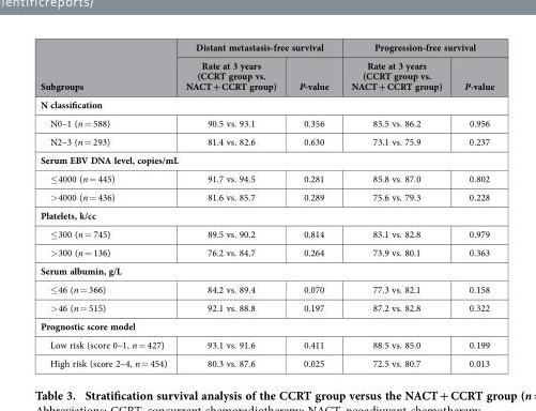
<table><thead><tr><td rowspan="2">Subgroups</td><td colspan="2">Distant metastasis-free survival</td><td colspan="2">Progression-free survival</td></tr><tr><td>Rate at 3 years (CCRT group vs. NACT + CCRT group)</td><td>P-value</td><td>Rate at 3 years (CCRT group vs. NACT + CCRT group)</td><td>P-value</td></tr></thead><tbody><tr><td colspan="5">N classification</td></tr><tr><td>N0–1 (n = 588)</td><td>90.5 vs. 93.1</td><td>0.356</td><td>85.5 vs. 86.2</td><td>0.956</td></tr><tr><td>N2–3 (n = 293)</td><td>81.4 vs. 82.6</td><td>0.630</td><td>73.1 vs. 75.9</td><td>0.237</td></tr><tr><td colspan="5">Serum EBV DNA level, copies/mL</td></tr><tr><td>≤ 4000 (n = 445)</td><td>91.7 vs. 94.5</td><td>0.281</td><td>85.8 vs. 87.0</td><td>0.802</td></tr><tr><td>&gt; 4000 (n = 436)</td><td>81.6 vs. 85.7</td><td>0.289</td><td>75.6 vs. 79.3</td><td>0.228</td></tr><tr><td colspan="5">Platelets, k/cc</td></tr><tr><td>≤ 300 (n = 745)</td><td>89.5 vs. 90.2</td><td>0.814</td><td>83.1 vs. 82.8</td><td>0.979</td></tr><tr><td>&gt; 300 (n = 136)</td><td>76.2 vs. 84.7</td><td>0.264</td><td>73.9 vs. 80.1</td><td>0.363</td></tr><tr><td colspan="5">Serum albumin, g/L</td></tr><tr><td>≤ 46 (n = 366)</td><td>84.2 vs. 89.4</td><td>0.070</td><td>77.3 vs. 82.1</td><td>0.158</td></tr><tr><td>&gt; 46 (n = 515)</td><td>92.1 vs. 88.8</td><td>0.197</td><td>87.2 vs. 82.8</td><td>0.322</td></tr><tr><td colspan="5">Prognostic score model</td></tr><tr><td>Low risk (score 0–1, n = 427)</td><td>93.1 vs. 91.6</td><td>0.411</td><td>88.5 vs. 85.0</td><td>0.199</td></tr><tr><td>High risk (score 2–4, n = 454)</td><td>80.3 vs. 87.6</td><td>0.025</td><td>72.5 vs. 80.7</td><td>0.013</td></tr></tbody></table>